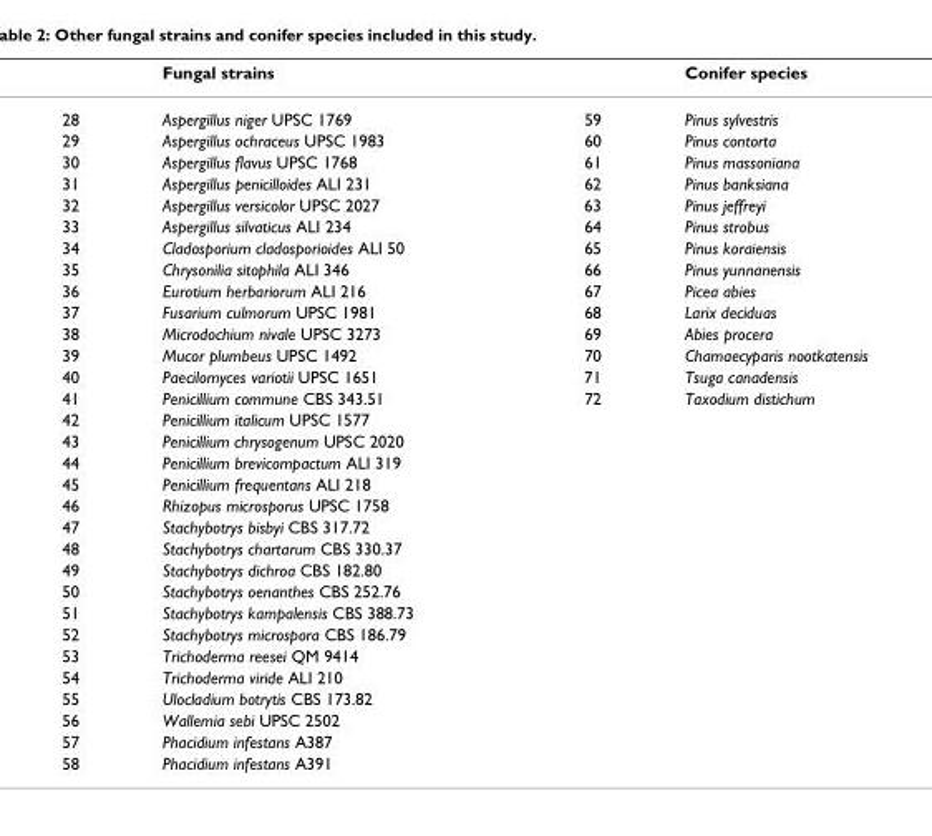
<table><thead><tr><td></td><td>Fungal strains</td><td></td><td>Conifer species</td></tr></thead><tbody><tr><td>28</td><td>Aspergillus niger UPSC 1769</td><td>59</td><td>Pinus sylvestris</td></tr><tr><td>29</td><td>Aspergillus ochraceus UPSC 1983</td><td>60</td><td>Pinus contorta</td></tr><tr><td>30</td><td>Aspergillus flavus UPSC 1768</td><td>61</td><td>Pinus massoniana</td></tr><tr><td>31</td><td>Aspergillus penicilloides ALI 231</td><td>62</td><td>Pinus banksiana</td></tr><tr><td>32</td><td>Aspergillus versicolor UPSC 2027</td><td>63</td><td>Pinus jeffreyi</td></tr><tr><td>33</td><td>Aspergillus silvaticus ALI 234</td><td>64</td><td>Pinus strobus</td></tr><tr><td>34</td><td>Cladosporium cladosporioides ALI 50</td><td>65</td><td>Pinus koraiensis</td></tr><tr><td>35</td><td>Chrysonilia sitophila ALI 346</td><td>66</td><td>Pinus yunnanensis</td></tr><tr><td>36</td><td>Eurotium herbariorum ALI 216</td><td>67</td><td>Picea abies</td></tr><tr><td>37</td><td>Fusarium culmorum UPSC 1981</td><td>68</td><td>Larix deciduas</td></tr><tr><td>38</td><td>Microdochium nivale UPSC 3273</td><td>69</td><td>Abies procera</td></tr><tr><td>39</td><td>Mucor plumbeus UPSC 1492</td><td>70</td><td>Chamaecyparis nootkatensis</td></tr><tr><td>40</td><td>Paecilomyces variotii UPSC 1651</td><td>71</td><td>Tsuga canadensis</td></tr><tr><td>41</td><td>Penicillium commune CBS 343.51</td><td>72</td><td>Taxodium distichum</td></tr><tr><td>42</td><td>Penicillium italicum UPSC 1577</td><td></td><td></td></tr><tr><td>43</td><td>Penicillium chrysogenum UPSC 2020</td><td></td><td></td></tr><tr><td>44</td><td>Penicillium brevicompactum ALI 319</td><td></td><td></td></tr><tr><td>45</td><td>Penicillium frequentans ALI 218</td><td></td><td></td></tr><tr><td>46</td><td>Rhizopus microsporus UPSC 1758</td><td></td><td></td></tr><tr><td>47</td><td>Stachybotrys bisbyi CBS 317.72</td><td></td><td></td></tr><tr><td>48</td><td>Stachybotrys chartarum CBS 330.37</td><td></td><td></td></tr><tr><td>49</td><td>Stachybotrys dichroa CBS 182.80</td><td></td><td></td></tr><tr><td>50</td><td>Stachybotrys oenanthes CBS 252.76</td><td></td><td></td></tr><tr><td>51</td><td>Stachybotrys kampalensis CBS 388.73</td><td></td><td></td></tr><tr><td>52</td><td>Stachybotrys microspora CBS 186.79</td><td></td><td></td></tr><tr><td>53</td><td>Trichoderma reesei QM 9414</td><td></td><td></td></tr><tr><td>54</td><td>Trichoderma viride ALI 210</td><td></td><td></td></tr><tr><td>55</td><td>Ulocladium botrytis CBS 173.82</td><td></td><td></td></tr><tr><td>56</td><td>Wallemia sebi UPSC 2502</td><td></td><td></td></tr><tr><td>57</td><td>Phacidium infestans A387</td><td></td><td></td></tr><tr><td>58</td><td>Phacidium infestans A391</td><td></td><td></td></tr></tbody></table>